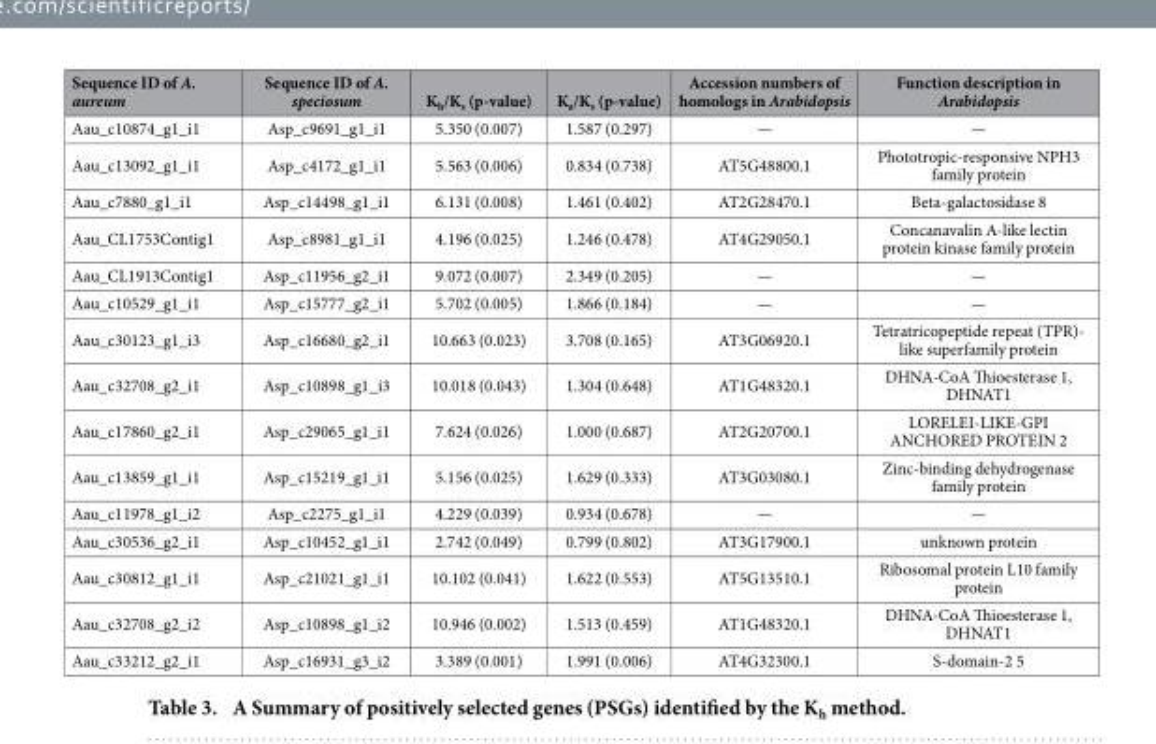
<table><thead><tr><td>Sequence ID of A. aureum</td><td>Sequence ID of A. speciosum</td><td>K<sub>h</sub>/K<sub>s</sub> (p-value)</td><td>K<sub>a</sub>/K<sub>s</sub> (p-value)</td><td>Accession numbers of homologs in Arabidopsis</td><td>Function description in Arabidopsis</td></tr></thead><tbody><tr><td>Aau_c10874_g1_i1</td><td>Asp_c9691_g1_i1</td><td>5.350 (0.007)</td><td>1.587 (0.297)</td><td>—</td><td>—</td></tr><tr><td>Aau_c13092_g1_i1</td><td>Asp_c4172_g1_i1</td><td>5.563 (0.006)</td><td>0.834 (0.738)</td><td>AT5G48800.1</td><td>Phototropic-responsive NPH3 family protein</td></tr><tr><td>Aau_c7880_g1_i1</td><td>Asp_c14498_g1_i1</td><td>6.131 (0.008)</td><td>1.461 (0.402)</td><td>AT2G28470.1</td><td>Beta-galactosidase 8</td></tr><tr><td>Aau_CL1753Contig1</td><td>Asp_c8981_g1_i1</td><td>4.196 (0.025)</td><td>1.246 (0.478)</td><td>AT4G29050.1</td><td>Concanavalin A-like lectin protein kinase family protein</td></tr><tr><td>Aau_CL1913Contig1</td><td>Asp_c11956_g2_i1</td><td>9.072 (0.007)</td><td>2.349 (0.205)</td><td>—</td><td>—</td></tr><tr><td>Aau_c10529_g1_i1</td><td>Asp_c15777_g2_i1</td><td>5.702 (0.005)</td><td>1.866 (0.184)</td><td>—</td><td>—</td></tr><tr><td>Aau_c30123_g1_i3</td><td>Asp_c16680_g2_i1</td><td>10.663 (0.023)</td><td>3.708 (0.165)</td><td>AT3G06920.1</td><td>Tetratricopeptide repeat (TPR)- like superfamily protein</td></tr><tr><td>Aau_c32708_g2_i1</td><td>Asp_c10898_g1_i3</td><td>10.018 (0.043)</td><td>1.304 (0.648)</td><td>AT1G48320.1</td><td>DHNA-CoA Thioesterase 1, DHNAT1</td></tr><tr><td>Aau_c17860_g2_i1</td><td>Asp_c29065_g1_i1</td><td>7.624 (0.026)</td><td>1.000 (0.687)</td><td>AT2G20700.1</td><td>LORELEI-LIKE-GPI ANCHORED PROTEIN 2</td></tr><tr><td>Aau_c13859_g1_i1</td><td>Asp_c15219_g1_i1</td><td>5.156 (0.025)</td><td>1.629 (0.333)</td><td>AT3G03080.1</td><td>Zinc-binding dehydrogenase family protein</td></tr><tr><td>Aau_c11978_g1_i2</td><td>Asp_c2275_g1_i1</td><td>4.229 (0.039)</td><td>0.934 (0.678)</td><td>—</td><td>—</td></tr><tr><td>Aau_c30536_g2_i1</td><td>Asp_c10452_g1_i1</td><td>2.742 (0.049)</td><td>0.799 (0.802)</td><td>AT3G17900.1</td><td>unknown protein</td></tr><tr><td>Aau_c30812_g1_i1</td><td>Asp_c21021_g1_i1</td><td>10.102 (0.041)</td><td>1.622 (0.553)</td><td>AT5G13510.1</td><td>Ribosomal protein L10 family protein</td></tr><tr><td>Aau_c32708_g2_i2</td><td>Asp_c10898_g1_i2</td><td>10.946 (0.002)</td><td>1.513 (0.459)</td><td>AT1G48320.1</td><td>DHNA-CoA Thioesterase 1, DHNAT1</td></tr><tr><td>Aau_c33212_g2_i1</td><td>Asp_c16931_g3_i2</td><td>3.389 (0.001)</td><td>1.991 (0.006)</td><td>AT4G32300.1</td><td>S-domain-2 5</td></tr></tbody></table>